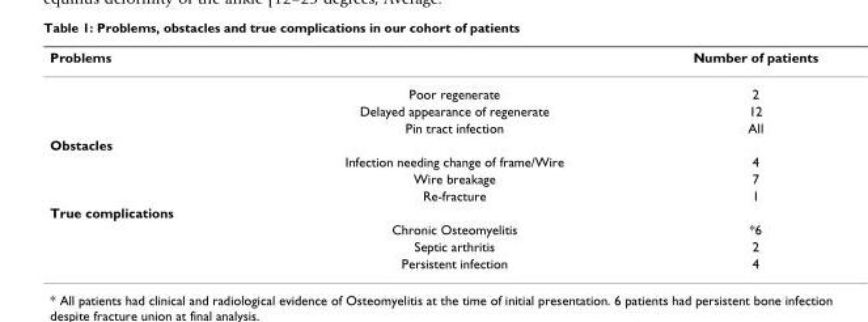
<table><thead><tr><td>Problems</td><td></td><td>Number of patients</td></tr></thead><tbody><tr><td></td><td>Poor regenerate</td><td>2</td></tr><tr><td></td><td>Delayed appearance of regenerate</td><td>12</td></tr><tr><td></td><td>Pin tract infection</td><td>All</td></tr><tr><td colspan="3">Obstacles</td></tr><tr><td></td><td>Infection needing change of frame/Wire</td><td>4</td></tr><tr><td></td><td>Wire breakage</td><td>7</td></tr><tr><td></td><td>Re-fracture</td><td>1</td></tr><tr><td colspan="3">True complications</td></tr><tr><td></td><td>Chronic Osteomyelitis</td><td>*6</td></tr><tr><td></td><td>Septic arthritis</td><td>2</td></tr><tr><td></td><td>Persistent infection</td><td>4</td></tr></tbody></table>